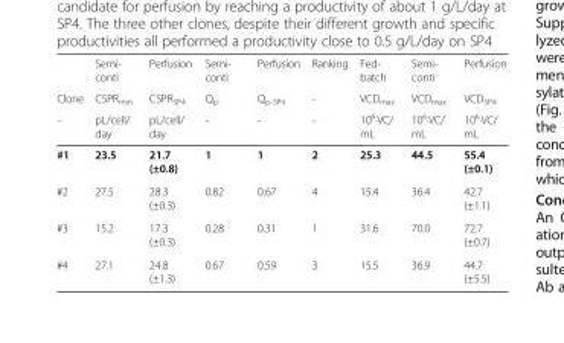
<table><thead><tr><td rowspan="3">Clone -</td><td rowspan="3">Semi- conti CSPR<sub>min</sub> pL/cell/ day</td><td rowspan="3">Perfusion CSPR<sub>SP4</sub> pL/cell/ day</td><td rowspan="3">Semi- conti Q<sub>p</sub> -</td><td rowspan="3">Perfusion Q<sub>p-SP4</sub> -</td><td rowspan="3">Ranking - -</td><td rowspan="3">Fed- batch VCD<sub>max</sub> 10<sup>6</sup>·VC/ mL</td><td rowspan="3">Semi- conti VCD<sub>max</sub> 10<sup>6</sup>·VC/ mL</td><td rowspan="3">Perfusion VCD<sub>SP4</sub> 10<sup>6</sup>·VC/ mL</td></tr><tr></tr><tr></tr></thead><tbody><tr><td>#1</td><td>23.5</td><td>21.7 (±0.8)</td><td>1</td><td>1</td><td>2</td><td>25.3</td><td>44.5</td><td>55.4 (±0.1)</td></tr><tr><td>#2</td><td>27.5</td><td>28.3 (±0.3)</td><td>0.82</td><td>0.67</td><td>4</td><td>15.4</td><td>36.4</td><td>42.7 (±1.1)</td></tr><tr><td>#3</td><td>15.2</td><td>17.3 (±0.3)</td><td>0.28</td><td>0.31</td><td>1</td><td>31.6</td><td>70.0</td><td>72.7 (±0.7)</td></tr><tr><td>#4</td><td>27.1</td><td>24.8 (±1.3)</td><td>0.67</td><td>0.59</td><td>3</td><td>15.5</td><td>36.9</td><td>44.7 (±5.5)</td></tr></tbody></table>